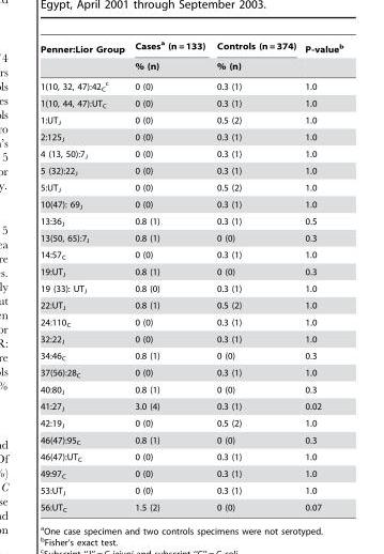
<table><thead><tr><td rowspan="2">Penner:Lior Group</td><td rowspan="2">Cases<sup>a</sup> (n = 133) % (n)</td><td rowspan="2">Controls (n = 374) % (n)</td><td rowspan="2">P-value<sup>b</sup></td></tr><tr></tr></thead><tbody><tr><td>1(10, 32, 47):42<sub>C</sub> c</td><td>0 (0)</td><td>0.3 (1)</td><td>1.0</td></tr><tr><td>1(10, 44, 47):UT<sub>C</sub></td><td>0 (0)</td><td>0.3 (1)</td><td>1.0</td></tr><tr><td>1:UT<sub>J</sub></td><td>0 (0)</td><td>0.5 (2)</td><td>1.0</td></tr><tr><td>2:125<sub>J</sub></td><td>0 (0)</td><td>0.3 (1)</td><td>1.0</td></tr><tr><td>4 (13, 50):7<sub>J</sub></td><td>0 (0)</td><td>0.3 (1)</td><td>1.0</td></tr><tr><td>5 (32):22<sub>J</sub></td><td>0 (0)</td><td>0.3 (1)</td><td>1.0</td></tr><tr><td>5:UT<sub>J</sub></td><td>0 (0)</td><td>0.5 (2)</td><td>1.0</td></tr><tr><td>10(47): 69<sub>J</sub></td><td>0 (0)</td><td>0.3 (1)</td><td>1.0</td></tr><tr><td>13:36<sub>J</sub></td><td>0.8 (1)</td><td>0.3 (1)</td><td>0.5</td></tr><tr><td>13(50, 65):7<sub>J</sub></td><td>0.8 (1)</td><td>0 (0)</td><td>0.3</td></tr><tr><td>14:57<sub>C</sub></td><td>0 (0)</td><td>0.3 (1)</td><td>1.0</td></tr><tr><td>19:UT<sub>J</sub></td><td>0.8 (1)</td><td>0 (0)</td><td>0.3</td></tr><tr><td>19 (33): UT<sub>J</sub></td><td>0.8 (0)</td><td>0.3 (1)</td><td>1.0</td></tr><tr><td>22:UT<sub>J</sub></td><td>0.8 (1)</td><td>0.5 (2)</td><td>1.0</td></tr><tr><td>24:110<sub>C</sub></td><td>0 (0)</td><td>0.3 (1)</td><td>1.0</td></tr><tr><td>32:22<sub>J</sub></td><td>0 (0)</td><td>0.3 (1)</td><td>1.0</td></tr><tr><td>34:46<sub>C</sub></td><td>0.8 (1)</td><td>0 (0)</td><td>0.3</td></tr><tr><td>37(56):28<sub>C</sub></td><td>0 (0)</td><td>0.3 (1)</td><td>1.0</td></tr><tr><td>40:80<sub>J</sub></td><td>0.8 (1)</td><td>0 (0)</td><td>0.3</td></tr><tr><td>41:27<sub>J</sub></td><td>3.0 (4)</td><td>0.3 (1)</td><td>0.02</td></tr><tr><td>42:19<sub>J</sub></td><td>0 (0)</td><td>0.5 (2)</td><td>1.0</td></tr><tr><td>46(47):95<sub>C</sub></td><td>0.8 (1)</td><td>0 (0)</td><td>0.3</td></tr><tr><td>46(47):UT<sub>C</sub></td><td>0 (0)</td><td>0.3 (1)</td><td>1.0</td></tr><tr><td>49:97<sub>C</sub></td><td>0 (0)</td><td>0.3 (1)</td><td>1.0</td></tr><tr><td>53:UT<sub>J</sub></td><td>0 (0)</td><td>0.3 (1)</td><td>1.0</td></tr><tr><td>56:UT<sub>C</sub></td><td>1.5 (2)</td><td>0 (0)</td><td>0.07</td></tr></tbody></table>